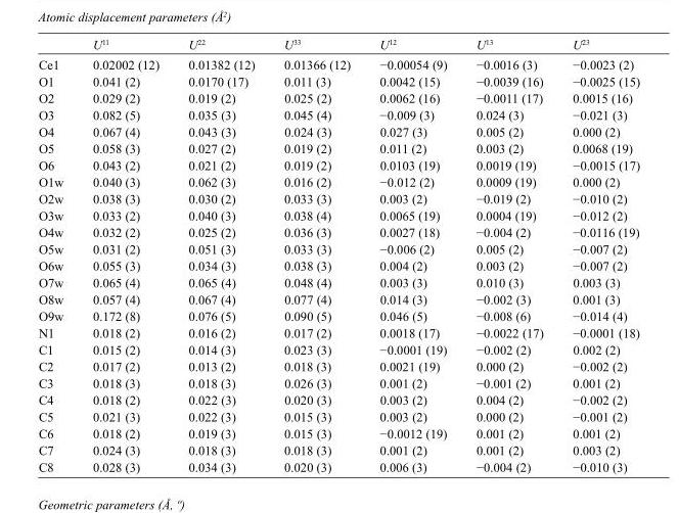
<table><thead><tr><td></td><td>U<sup>11</sup></td><td>U<sup>22</sup></td><td>U<sup>33</sup></td><td>U<sup>12</sup></td><td>U<sup>13</sup></td><td>U<sup>23</sup></td></tr></thead><tbody><tr><td>Ce1</td><td>0.02002 (12)</td><td>0.01382 (12)</td><td>0.01366 (12)</td><td>−0.00054 (9)</td><td>−0.0016 (3)</td><td>−0.0023 (2)</td></tr><tr><td>O1</td><td>0.041 (2)</td><td>0.0170 (17)</td><td>0.011 (3)</td><td>0.0042 (15)</td><td>−0.0039 (16)</td><td>−0.0025 (15)</td></tr><tr><td>O2</td><td>0.029 (2)</td><td>0.019 (2)</td><td>0.025 (2)</td><td>0.0062 (16)</td><td>−0.0011 (17)</td><td>0.0015 (16)</td></tr><tr><td>O3</td><td>0.082 (5)</td><td>0.035 (3)</td><td>0.045 (4)</td><td>−0.009 (3)</td><td>0.024 (3)</td><td>−0.021 (3)</td></tr><tr><td>O4</td><td>0.067 (4)</td><td>0.043 (3)</td><td>0.024 (3)</td><td>0.027 (3)</td><td>0.005 (2)</td><td>0.000 (2)</td></tr><tr><td>O5</td><td>0.058 (3)</td><td>0.027 (2)</td><td>0.019 (2)</td><td>0.011 (2)</td><td>0.003 (2)</td><td>0.0068 (19)</td></tr><tr><td>O6</td><td>0.043 (2)</td><td>0.021 (2)</td><td>0.019 (2)</td><td>0.0103 (19)</td><td>0.0019 (19)</td><td>−0.0015 (17)</td></tr><tr><td>O1w</td><td>0.040 (3)</td><td>0.062 (3)</td><td>0.016 (2)</td><td>−0.012 (2)</td><td>0.0009 (19)</td><td>0.000 (2)</td></tr><tr><td>O2w</td><td>0.038 (3)</td><td>0.030 (2)</td><td>0.033 (3)</td><td>0.003 (2)</td><td>−0.019 (2)</td><td>−0.010 (2)</td></tr><tr><td>O3w</td><td>0.033 (2)</td><td>0.040 (3)</td><td>0.038 (4)</td><td>0.0065 (19)</td><td>0.0004 (19)</td><td>−0.012 (2)</td></tr><tr><td>O4w</td><td>0.032 (2)</td><td>0.025 (2)</td><td>0.036 (3)</td><td>0.0027 (18)</td><td>−0.004 (2)</td><td>−0.0116 (19)</td></tr><tr><td>O5w</td><td>0.031 (2)</td><td>0.051 (3)</td><td>0.033 (3)</td><td>−0.006 (2)</td><td>0.005 (2)</td><td>−0.007 (2)</td></tr><tr><td>O6w</td><td>0.055 (3)</td><td>0.034 (3)</td><td>0.038 (3)</td><td>0.004 (2)</td><td>0.003 (2)</td><td>−0.007 (2)</td></tr><tr><td>O7w</td><td>0.065 (4)</td><td>0.065 (4)</td><td>0.048 (4)</td><td>0.003 (3)</td><td>0.010 (3)</td><td>0.003 (3)</td></tr><tr><td>O8w</td><td>0.057 (4)</td><td>0.067 (4)</td><td>0.077 (4)</td><td>0.014 (3)</td><td>−0.002 (3)</td><td>0.001 (3)</td></tr><tr><td>O9w</td><td>0.172 (8)</td><td>0.076 (5)</td><td>0.090 (5)</td><td>0.046 (5)</td><td>−0.008 (6)</td><td>−0.014 (4)</td></tr><tr><td>N1</td><td>0.018 (2)</td><td>0.016 (2)</td><td>0.017 (2)</td><td>0.0018 (17)</td><td>−0.0022 (17)</td><td>−0.0001 (18)</td></tr><tr><td>C1</td><td>0.015 (2)</td><td>0.014 (3)</td><td>0.023 (3)</td><td>−0.0001 (19)</td><td>−0.002 (2)</td><td>0.002 (2)</td></tr><tr><td>C2</td><td>0.017 (2)</td><td>0.013 (2)</td><td>0.018 (3)</td><td>0.0021 (19)</td><td>0.000 (2)</td><td>−0.002 (2)</td></tr><tr><td>C3</td><td>0.018 (3)</td><td>0.018 (3)</td><td>0.026 (3)</td><td>0.001 (2)</td><td>−0.001 (2)</td><td>0.001 (2)</td></tr><tr><td>C4</td><td>0.018 (2)</td><td>0.022 (3)</td><td>0.020 (3)</td><td>0.003 (2)</td><td>0.004 (2)</td><td>−0.002 (2)</td></tr><tr><td>C5</td><td>0.021 (3)</td><td>0.022 (3)</td><td>0.015 (3)</td><td>0.003 (2)</td><td>0.000 (2)</td><td>−0.001 (2)</td></tr><tr><td>C6</td><td>0.018 (2)</td><td>0.019 (3)</td><td>0.015 (3)</td><td>−0.0012 (19)</td><td>0.001 (2)</td><td>0.001 (2)</td></tr><tr><td>C7</td><td>0.024 (3)</td><td>0.018 (3)</td><td>0.018 (3)</td><td>0.001 (2)</td><td>0.001 (2)</td><td>0.003 (2)</td></tr><tr><td>C8</td><td>0.028 (3)</td><td>0.034 (3)</td><td>0.020 (3)</td><td>0.006 (3)</td><td>−0.004 (2)</td><td>−0.010 (3)</td></tr></tbody></table>